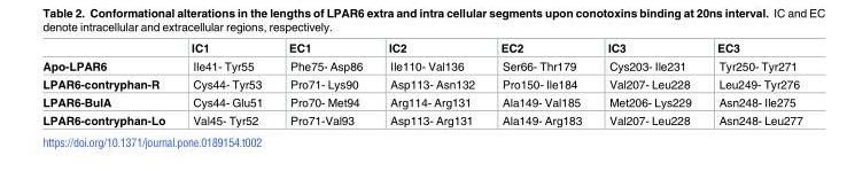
<table><thead><tr><td></td><td>IC1</td><td>EC1</td><td>IC2</td><td>EC2</td><td>IC3</td><td>EC3</td></tr></thead><tbody><tr><td>Apo-LPAR6</td><td>Ile41- Tyr55</td><td>Phe75- Asp86</td><td>Ile110- Val136</td><td>Ser66- Thr179</td><td>Cys203- Ile231</td><td>Tyr250- Tyr271</td></tr><tr><td>LPAR6-contryphan-R</td><td>Cys44- Tyr53</td><td>Pro71- Lys90</td><td>Asp113- Asn132</td><td>Pro150- Ile184</td><td>Val207- Leu228</td><td>Leu249- Tyr276</td></tr><tr><td>LPAR6-BuIA</td><td>Cys44- Glu51</td><td>Pro70- Met94</td><td>Arg114- Arg131</td><td>Ala149- Val185</td><td>Met206- Lys229</td><td>Asn248- Ile275</td></tr><tr><td>LPAR6-contryphan-Lo</td><td>Val45- Tyr52</td><td>Pro71-Val93</td><td>Asp113- Arg131</td><td>Ala149- Arg183</td><td>Val207- Leu228</td><td>Asn248- Leu277</td></tr></tbody></table>